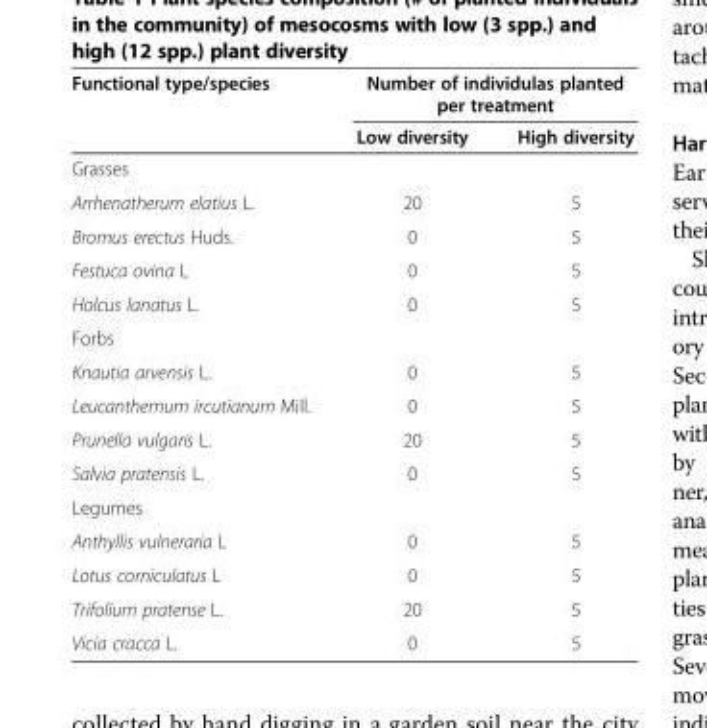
<table><thead><tr><td rowspan="2">Functional type/species</td><td colspan="2">Number of individulas planted per treatment</td></tr><tr><td>Low diversity</td><td>High diversity</td></tr></thead><tbody><tr><td colspan="3">Grasses</td></tr><tr><td>Arrhenatherum elatius L.</td><td>20</td><td>5</td></tr><tr><td>Bromus erectus Huds.</td><td>0</td><td>5</td></tr><tr><td>Festuca ovina L</td><td>0</td><td>5</td></tr><tr><td>Holcus lanatus L.</td><td>0</td><td>5</td></tr><tr><td colspan="3">Forbs</td></tr><tr><td>Knautia arvensis L.</td><td>0</td><td>5</td></tr><tr><td>Leucanthemum ircutianum Mill.</td><td>0</td><td>5</td></tr><tr><td>Prunella vulgaris L.</td><td>20</td><td>5</td></tr><tr><td>Salvia pratensis L.</td><td>0</td><td>5</td></tr><tr><td colspan="3">Legumes</td></tr><tr><td>Anthyllis vulneraria L</td><td>0</td><td>5</td></tr><tr><td>Lotus corniculatus L</td><td>0</td><td>5</td></tr><tr><td>Trifolium pratense L.</td><td>20</td><td>5</td></tr><tr><td>Vicia cracca L.</td><td>0</td><td>5</td></tr></tbody></table>